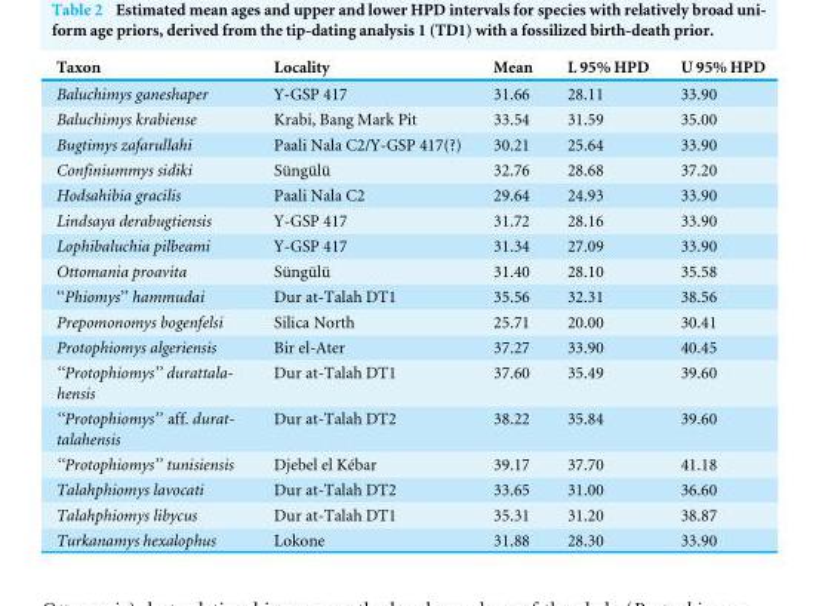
<table><thead><tr><td>Taxon</td><td>Locality</td><td>Mean</td><td>L 95% HPD</td><td>U 95% HPD</td></tr></thead><tbody><tr><td>Baluchimys ganeshaper</td><td>Y-GSP 417</td><td>31.66</td><td>28.11</td><td>33.90</td></tr><tr><td>Baluchimys krabiense</td><td>Krabi, Bang Mark Pit</td><td>33.54</td><td>31.59</td><td>35.00</td></tr><tr><td>Bugtimys zafarullahi</td><td>Paali Nala C2/Y-GSP 417(?)</td><td>30.21</td><td>25.64</td><td>33.90</td></tr><tr><td>Confiniummys sidiki</td><td>Süngülü</td><td>32.76</td><td>28.68</td><td>37.20</td></tr><tr><td>Hodsahibia gracilis</td><td>Paali Nala C2</td><td>29.64</td><td>24.93</td><td>33.90</td></tr><tr><td>Lindsaya derabugtiensis</td><td>Y-GSP 417</td><td>31.72</td><td>28.16</td><td>33.90</td></tr><tr><td>Lophibaluchia pilbeami</td><td>Y-GSP 417</td><td>31.34</td><td>27.09</td><td>33.90</td></tr><tr><td>Ottomania proavita</td><td>Süngülü</td><td>31.40</td><td>28.10</td><td>35.58</td></tr><tr><td>‘‘Phiomys’’ hammudai</td><td>Dur at-Talah DT1</td><td>35.56</td><td>32.31</td><td>38.56</td></tr><tr><td>Prepomonomys bogenfelsi</td><td>Silica North</td><td>25.71</td><td>20.00</td><td>30.41</td></tr><tr><td>Protophiomys algeriensis</td><td>Bir el-Ater</td><td>37.27</td><td>33.90</td><td>40.45</td></tr><tr><td>‘‘Protophiomys’’ durattala- hensis</td><td>Dur at-Talah DT1</td><td>37.60</td><td>35.49</td><td>39.60</td></tr><tr><td>‘‘Protophiomys’’ aff. durat- talahensis</td><td>Dur at-Talah DT2</td><td>38.22</td><td>35.84</td><td>39.60</td></tr><tr><td>‘‘Protophiomys’’ tunisiensis</td><td>Djebel el Kébar</td><td>39.17</td><td>37.70</td><td>41.18</td></tr><tr><td>Talahphiomys lavocati</td><td>Dur at-Talah DT2</td><td>33.65</td><td>31.00</td><td>36.60</td></tr><tr><td>Talahphiomys libycus</td><td>Dur at-Talah DT1</td><td>35.31</td><td>31.20</td><td>38.87</td></tr><tr><td>Turkanamys hexalophus</td><td>Lokone</td><td>31.88</td><td>28.30</td><td>33.90</td></tr></tbody></table>